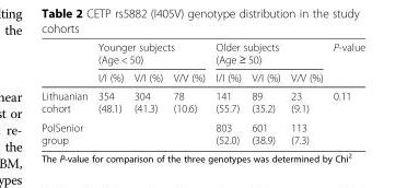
<table><thead><tr><td rowspan="2"></td><td colspan="3">Younger subjects (Age &lt; 50)</td><td colspan="3">Older subjects (Age ≥ 50)</td><td rowspan="2">P-value</td></tr><tr><td>I/I (%)</td><td>V/I (%)</td><td>V/V (%)</td><td>I/I (%)</td><td>V/I (%)</td><td>V/V (%)</td></tr></thead><tbody><tr><td>Lithuanian cohort</td><td>354 (48.1)</td><td>304 (41.3)</td><td>78 (10.6)</td><td>141 (55.7)</td><td>89 (35.2)</td><td>23 (9.1)</td><td>0.11</td></tr><tr><td>PolSenior group</td><td></td><td></td><td></td><td>803 (52.0)</td><td>601 (38.9)</td><td>113 (7.3)</td><td></td></tr></tbody></table>